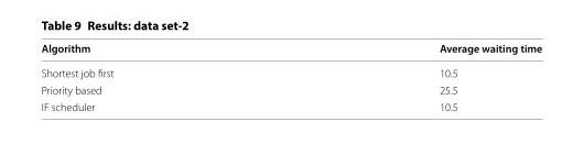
<table><thead><tr><td>Algorithm</td><td>Average waiting time</td></tr></thead><tbody><tr><td>Shortest job first</td><td>10.5</td></tr><tr><td>Priority based</td><td>25.5</td></tr><tr><td>IF scheduler</td><td>10.5</td></tr></tbody></table>